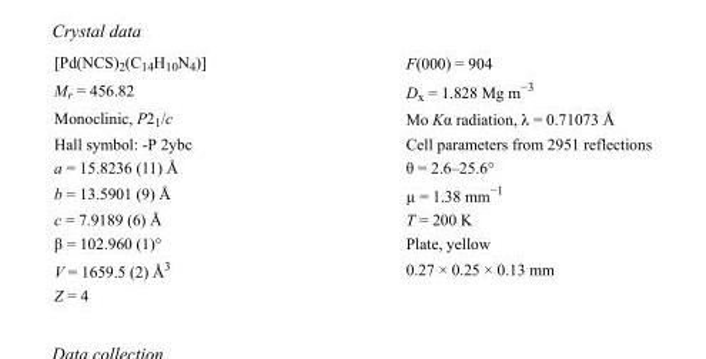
<table><tbody><tr><td>[Pd(NCS)<sub>2</sub>(C<sub>14</sub>H<sub>10</sub>N<sub>4</sub>)]</td><td>F(000) = 904</td></tr><tr><td>M<sub>r</sub> = 456.82</td><td>D<sub>x</sub> = 1.828 Mg m<sup>−3</sup></td></tr><tr><td>Monoclinic, P2<sub>1</sub>/c</td><td>Mo Kα radiation, λ = 0.71073 Å</td></tr><tr><td>Hall symbol: -P 2ybc</td><td>Cell parameters from 2951 reflections</td></tr><tr><td>a = 15.8236 (11) Å</td><td>θ = 2.6–25.6°</td></tr><tr><td>b = 13.5901 (9) Å</td><td>µ = 1.38 mm<sup>−1</sup></td></tr><tr><td>c = 7.9189 (6) Å</td><td>T = 200 K</td></tr><tr><td>β = 102.960 (1)°</td><td>Plate, yellow</td></tr><tr><td>V = 1659.5 (2) Å<sup>3</sup></td><td>0.27 × 0.25 × 0.13 mm</td></tr><tr><td>Z = 4</td><td></td></tr></tbody></table>